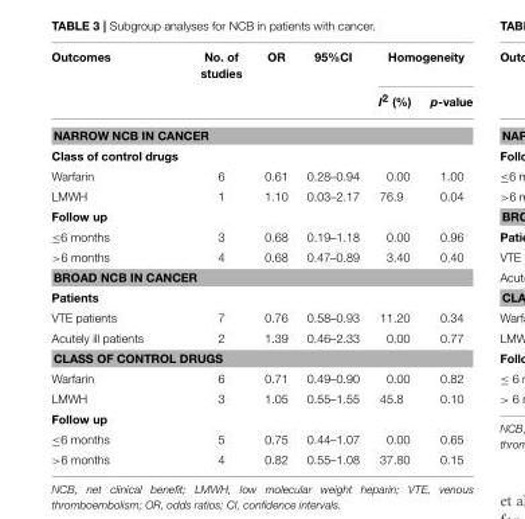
<table><thead><tr><td rowspan="2">Outcomes</td><td rowspan="2">No. of studies</td><td rowspan="2">OR</td><td rowspan="2">95%CI</td><td colspan="2">Homogeneity</td></tr><tr><td>I<sup>2</sup> (%)</td><td>p-value</td></tr></thead><tbody><tr><td colspan="6">NARROW NCB IN CANCER</td></tr><tr><td colspan="6">Class of control drugs</td></tr><tr><td>Warfarin</td><td>6</td><td>0.61</td><td>0.28–0.94</td><td>0.00</td><td>1.00</td></tr><tr><td>LMWH</td><td>1</td><td>1.10</td><td>0.03–2.17</td><td>76.9</td><td>0.04</td></tr><tr><td colspan="6">Follow up</td></tr><tr><td>≤6 months</td><td>3</td><td>0.68</td><td>0.19–1.18</td><td>0.00</td><td>0.96</td></tr><tr><td>&gt;6 months</td><td>4</td><td>0.68</td><td>0.47–0.89</td><td>3.40</td><td>0.40</td></tr><tr><td colspan="6">BROAD NCB IN CANCER</td></tr><tr><td colspan="6">Patients</td></tr><tr><td>VTE patients</td><td>7</td><td>0.76</td><td>0.58–0.93</td><td>11.20</td><td>0.34</td></tr><tr><td>Acutely ill patients</td><td>2</td><td>1.39</td><td>0.46–2.33</td><td>0.00</td><td>0.77</td></tr><tr><td colspan="6">CLASS OF CONTROL DRUGS</td></tr><tr><td>Warfarin</td><td>6</td><td>0.71</td><td>0.49–0.90</td><td>0.00</td><td>0.82</td></tr><tr><td>LMWH</td><td>3</td><td>1.05</td><td>0.55–1.55</td><td>45.8</td><td>0.10</td></tr><tr><td colspan="6">Follow up</td></tr><tr><td>≤6 months</td><td>5</td><td>0.75</td><td>0.44–1.07</td><td>0.00</td><td>0.65</td></tr><tr><td>&gt;6 months</td><td>4</td><td>0.82</td><td>0.55–1.08</td><td>37.80</td><td>0.15</td></tr></tbody></table>